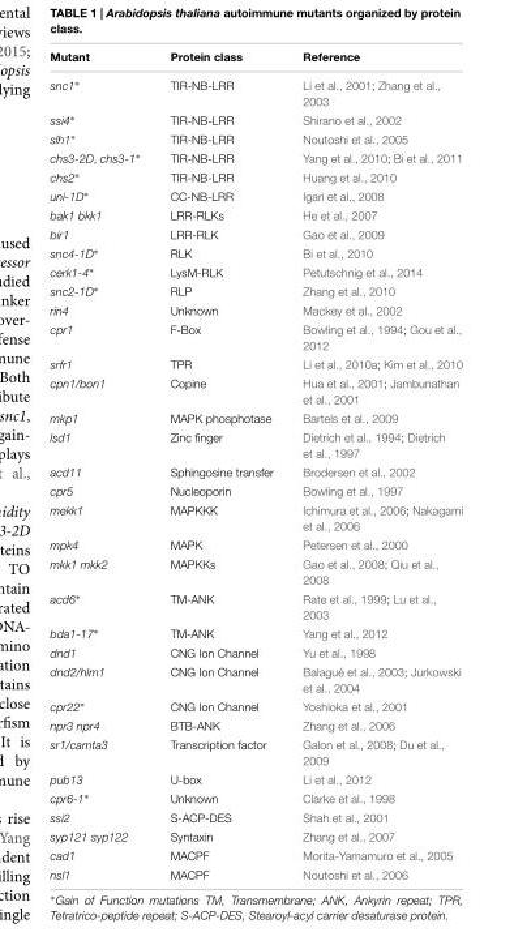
<table><thead><tr><td>Mutant</td><td>Protein class</td><td>Reference</td></tr></thead><tbody><tr><td>snc1∗</td><td>TIR-NB-LRR</td><td>Li et al., 2001; Zhang et al., 2003</td></tr><tr><td>ssi4∗</td><td>TIR-NB-LRR</td><td>Shirano et al., 2002</td></tr><tr><td>slh1∗</td><td>TIR-NB-LRR</td><td>Noutoshi et al., 2005</td></tr><tr><td>chs3-2D, chs3-1∗</td><td>TIR-NB-LRR</td><td>Yang et al., 2010; Bi et al., 2011</td></tr><tr><td>chs2∗</td><td>TIR-NB-LRR</td><td>Huang et al., 2010</td></tr><tr><td>uni-1D∗</td><td>CC-NB-LRR</td><td>Igari et al., 2008</td></tr><tr><td>bak1 bkk1</td><td>LRR-RLKs</td><td>He et al., 2007</td></tr><tr><td>bir1</td><td>LRR-RLK</td><td>Gao et al., 2009</td></tr><tr><td>snc4-1D∗</td><td>RLK</td><td>Bi et al., 2010</td></tr><tr><td>cerk1-4∗</td><td>LysM-RLK</td><td>Petutschnig et al., 2014</td></tr><tr><td>snc2-1D∗</td><td>RLP</td><td>Zhang et al., 2010</td></tr><tr><td>rin4</td><td>Unknown</td><td>Mackey et al., 2002</td></tr><tr><td>cpr1</td><td>F-Box</td><td>Bowling et al., 1994; Gou et al., 2012</td></tr><tr><td>srfr1</td><td>TPR</td><td>Li et al., 2010a; Kim et al., 2010</td></tr><tr><td>cpn1/bon1</td><td>Copine</td><td>Hua et al., 2001; Jambunathan et al., 2001</td></tr><tr><td>mkp1</td><td>MAPK phosphotase</td><td>Bartels et al., 2009</td></tr><tr><td>lsd1</td><td>Zinc finger</td><td>Dietrich et al., 1994; Dietrich et al., 1997</td></tr><tr><td>acd11</td><td>Sphingosine transfer</td><td>Brodersen et al., 2002</td></tr><tr><td>cpr5</td><td>Nucleoporin</td><td>Bowling et al., 1997</td></tr><tr><td>mekk1</td><td>MAPKKK</td><td>Ichimura et al., 2006; Nakagami et al., 2006</td></tr><tr><td>mpk4</td><td>MAPK</td><td>Petersen et al., 2000</td></tr><tr><td>mkk1 mkk2</td><td>MAPKKs</td><td>Gao et al., 2008; Qiu et al., 2008</td></tr><tr><td>acd6∗</td><td>TM-ANK</td><td>Rate et al., 1999; Lu et al., 2003</td></tr><tr><td>bda1-17∗</td><td>TM-ANK</td><td>Yang et al., 2012</td></tr><tr><td>dnd1</td><td>CNG Ion Channel</td><td>Yu et al., 1998</td></tr><tr><td>dnd2/hlm1</td><td>CNG Ion Channel</td><td>Balagué et al., 2003; Jurkowski et al., 2004</td></tr><tr><td>cpr22∗</td><td>CNG Ion Channel</td><td>Yoshioka et al., 2001</td></tr><tr><td>npr3 npr4</td><td>BTB-ANK</td><td>Zhang et al., 2006</td></tr><tr><td>sr1/camta3</td><td>Transcription factor</td><td>Galon et al., 2008; Du et al., 2009</td></tr><tr><td>pub13</td><td>U-box</td><td>Li et al., 2012</td></tr><tr><td>cpr6-1∗</td><td>Unknown</td><td>Clarke et al., 1998</td></tr><tr><td>ssi2</td><td>S-ACP-DES</td><td>Shah et al., 2001</td></tr><tr><td>syp121 syp122</td><td>Syntaxin</td><td>Zhang et al., 2007</td></tr><tr><td>cad1</td><td>MACPF</td><td>Morita-Yamamuro et al., 2005</td></tr><tr><td>nsl1</td><td>MACPF</td><td>Noutoshi et al., 2006</td></tr></tbody></table>